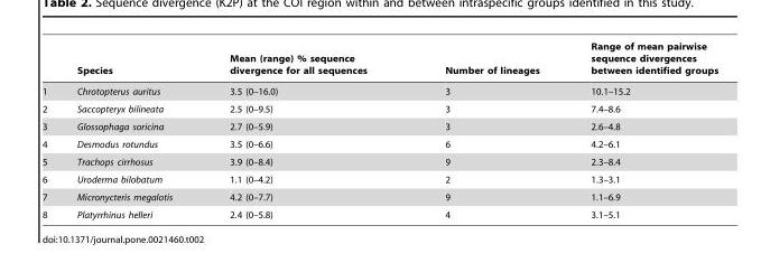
<table><thead><tr><td></td><td>Species</td><td>Mean (range) % sequence divergence for all sequences</td><td>Number of lineages</td><td>Range of mean pairwise sequence divergences between identified groups</td></tr></thead><tbody><tr><td>1</td><td>Chrotopterus auritus</td><td>3.5 (0–16.0)</td><td>3</td><td>10.1–15.2</td></tr><tr><td>2</td><td>Saccopteryx bilineata</td><td>2.5 (0–9.5)</td><td>3</td><td>7.4–8.6</td></tr><tr><td>3</td><td>Glossophaga soricina</td><td>2.7 (0–5.9)</td><td>3</td><td>2.6–4.8</td></tr><tr><td>4</td><td>Desmodus rotundus</td><td>3.5 (0–6.6)</td><td>6</td><td>4.2–6.1</td></tr><tr><td>5</td><td>Trachops cirrhosus</td><td>3.9 (0–8.4)</td><td>9</td><td>2.3–8.4</td></tr><tr><td>6</td><td>Uroderma bilobatum</td><td>1.1 (0–4.2)</td><td>2</td><td>1.3–3.1</td></tr><tr><td>7</td><td>Micronycteris megalotis</td><td>4.2 (0–7.7)</td><td>9</td><td>1.1–6.9</td></tr><tr><td>8</td><td>Platyrrhinus helleri</td><td>2.4 (0–5.8)</td><td>4</td><td>3.1–5.1</td></tr></tbody></table>